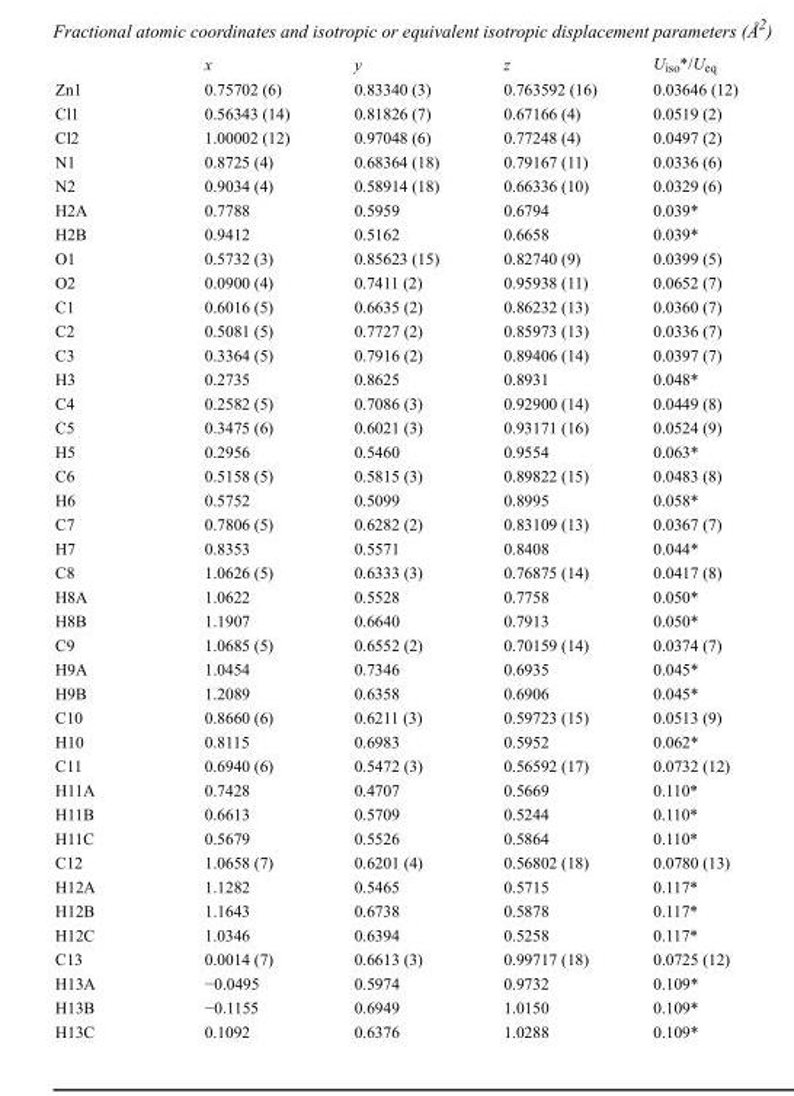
<table><thead><tr><td></td><td>x</td><td>y</td><td>z</td><td>U<sub>iso</sub>*/U<sub>eq</sub></td></tr></thead><tbody><tr><td>Zn1</td><td>0.75702 (6)</td><td>0.83340 (3)</td><td>0.763592 (16)</td><td>0.03646 (12)</td></tr><tr><td>Cl1</td><td>0.56343 (14)</td><td>0.81826 (7)</td><td>0.67166 (4)</td><td>0.0519 (2)</td></tr><tr><td>Cl2</td><td>1.00002 (12)</td><td>0.97048 (6)</td><td>0.77248 (4)</td><td>0.0497 (2)</td></tr><tr><td>N1</td><td>0.8725 (4)</td><td>0.68364 (18)</td><td>0.79167 (11)</td><td>0.0336 (6)</td></tr><tr><td>N2</td><td>0.9034 (4)</td><td>0.58914 (18)</td><td>0.66336 (10)</td><td>0.0329 (6)</td></tr><tr><td>H2A</td><td>0.7788</td><td>0.5959</td><td>0.6794</td><td>0.039*</td></tr><tr><td>H2B</td><td>0.9412</td><td>0.5162</td><td>0.6658</td><td>0.039*</td></tr><tr><td>O1</td><td>0.5732 (3)</td><td>0.85623 (15)</td><td>0.82740 (9)</td><td>0.0399 (5)</td></tr><tr><td>O2</td><td>0.0900 (4)</td><td>0.7411 (2)</td><td>0.95938 (11)</td><td>0.0652 (7)</td></tr><tr><td>C1</td><td>0.6016 (5)</td><td>0.6635 (2)</td><td>0.86232 (13)</td><td>0.0360 (7)</td></tr><tr><td>C2</td><td>0.5081 (5)</td><td>0.7727 (2)</td><td>0.85973 (13)</td><td>0.0336 (7)</td></tr><tr><td>C3</td><td>0.3364 (5)</td><td>0.7916 (2)</td><td>0.89406 (14)</td><td>0.0397 (7)</td></tr><tr><td>H3</td><td>0.2735</td><td>0.8625</td><td>0.8931</td><td>0.048*</td></tr><tr><td>C4</td><td>0.2582 (5)</td><td>0.7086 (3)</td><td>0.92900 (14)</td><td>0.0449 (8)</td></tr><tr><td>C5</td><td>0.3475 (6)</td><td>0.6021 (3)</td><td>0.93171 (16)</td><td>0.0524 (9)</td></tr><tr><td>H5</td><td>0.2956</td><td>0.5460</td><td>0.9554</td><td>0.063*</td></tr><tr><td>C6</td><td>0.5158 (5)</td><td>0.5815 (3)</td><td>0.89822 (15)</td><td>0.0483 (8)</td></tr><tr><td>H6</td><td>0.5752</td><td>0.5099</td><td>0.8995</td><td>0.058*</td></tr><tr><td>C7</td><td>0.7806 (5)</td><td>0.6282 (2)</td><td>0.83109 (13)</td><td>0.0367 (7)</td></tr><tr><td>H7</td><td>0.8353</td><td>0.5571</td><td>0.8408</td><td>0.044*</td></tr><tr><td>C8</td><td>1.0626 (5)</td><td>0.6333 (3)</td><td>0.76875 (14)</td><td>0.0417 (8)</td></tr><tr><td>H8A</td><td>1.0622</td><td>0.5528</td><td>0.7758</td><td>0.050*</td></tr><tr><td>H8B</td><td>1.1907</td><td>0.6640</td><td>0.7913</td><td>0.050*</td></tr><tr><td>C9</td><td>1.0685 (5)</td><td>0.6552 (2)</td><td>0.70159 (14)</td><td>0.0374 (7)</td></tr><tr><td>H9A</td><td>1.0454</td><td>0.7346</td><td>0.6935</td><td>0.045*</td></tr><tr><td>H9B</td><td>1.2089</td><td>0.6358</td><td>0.6906</td><td>0.045*</td></tr><tr><td>C10</td><td>0.8660 (6)</td><td>0.6211 (3)</td><td>0.59723 (15)</td><td>0.0513 (9)</td></tr><tr><td>H10</td><td>0.8115</td><td>0.6983</td><td>0.5952</td><td>0.062*</td></tr><tr><td>C11</td><td>0.6940 (6)</td><td>0.5472 (3)</td><td>0.56592 (17)</td><td>0.0732 (12)</td></tr><tr><td>H11A</td><td>0.7428</td><td>0.4707</td><td>0.5669</td><td>0.110*</td></tr><tr><td>H11B</td><td>0.6613</td><td>0.5709</td><td>0.5244</td><td>0.110*</td></tr><tr><td>H11C</td><td>0.5679</td><td>0.5526</td><td>0.5864</td><td>0.110*</td></tr><tr><td>C12</td><td>1.0658 (7)</td><td>0.6201 (4)</td><td>0.56802 (18)</td><td>0.0780 (13)</td></tr><tr><td>H12A</td><td>1.1282</td><td>0.5465</td><td>0.5715</td><td>0.117*</td></tr><tr><td>H12B</td><td>1.1643</td><td>0.6738</td><td>0.5878</td><td>0.117*</td></tr><tr><td>H12C</td><td>1.0346</td><td>0.6394</td><td>0.5258</td><td>0.117*</td></tr><tr><td>C13</td><td>0.0014 (7)</td><td>0.6613 (3)</td><td>0.99717 (18)</td><td>0.0725 (12)</td></tr><tr><td>H13A</td><td>−0.0495</td><td>0.5974</td><td>0.9732</td><td>0.109*</td></tr><tr><td>H13B</td><td>−0.1155</td><td>0.6949</td><td>1.0150</td><td>0.109*</td></tr><tr><td>H13C</td><td>0.1092</td><td>0.6376</td><td>1.0288</td><td>0.109*</td></tr></tbody></table>